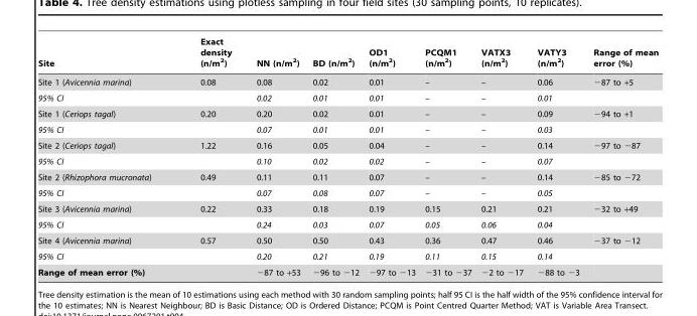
<table><thead><tr><td>Site</td><td>Exact density (n/m<sup>2</sup>)</td><td>NN (n/m<sup>2</sup>)</td><td>BD (n/m<sup>2</sup>)</td><td>OD1 (n/m<sup>2</sup>)</td><td>PCQM1 (n/m<sup>2</sup>)</td><td>VATX3 (n/m<sup>2</sup>)</td><td>VATY3 (n/m<sup>2</sup>)</td><td>Range of mean error (%)</td></tr></thead><tbody><tr><td>Site 1 (Avicennia marina)</td><td>0.08</td><td>0.08</td><td>0.02</td><td>0.01</td><td>–</td><td>–</td><td>0.06</td><td>−87 to +5</td></tr><tr><td>95% CI</td><td></td><td>0.02</td><td>0.01</td><td>0.01</td><td>–</td><td>–</td><td>0.01</td><td></td></tr><tr><td>Site 1 (Ceriops tagal)</td><td>0.20</td><td>0.20</td><td>0.02</td><td>0.01</td><td>–</td><td>–</td><td>0.09</td><td>−94 to +1</td></tr><tr><td>95% CI</td><td></td><td>0.07</td><td>0.01</td><td>0.01</td><td>–</td><td>–</td><td>0.03</td><td></td></tr><tr><td>Site 2 (Ceriops tagal)</td><td>1.22</td><td>0.16</td><td>0.05</td><td>0.04</td><td>–</td><td>–</td><td>0.14</td><td>−97 to −87</td></tr><tr><td>95% CI</td><td></td><td>0.10</td><td>0.02</td><td>0.02</td><td>–</td><td>–</td><td>0.07</td><td></td></tr><tr><td>Site 2 (Rhizophora mucronata)</td><td>0.49</td><td>0.11</td><td>0.11</td><td>0.07</td><td>–</td><td>–</td><td>0.14</td><td>−85 to −72</td></tr><tr><td>95% CI</td><td></td><td>0.07</td><td>0.08</td><td>0.07</td><td>–</td><td>–</td><td>0.05</td><td></td></tr><tr><td>Site 3 (Avicennia marina)</td><td>0.22</td><td>0.33</td><td>0.18</td><td>0.19</td><td>0.15</td><td>0.21</td><td>0.21</td><td>−32 to +49</td></tr><tr><td>95% CI</td><td></td><td>0.24</td><td>0.03</td><td>0.07</td><td>0.05</td><td>0.06</td><td>0.04</td><td></td></tr><tr><td>Site 4 (Avicennia marina)</td><td>0.57</td><td>0.50</td><td>0.50</td><td>0.43</td><td>0.36</td><td>0.47</td><td>0.46</td><td>−37 to −12</td></tr><tr><td>95% CI</td><td></td><td>0.20</td><td>0.21</td><td>0.19</td><td>0.11</td><td>0.15</td><td>0.14</td><td></td></tr><tr><td>Range of mean error (%)</td><td></td><td>−87 to +53</td><td>−96 to −12</td><td>−97 to −13</td><td>−31 to −37</td><td>−2 to −17</td><td>−88 to −3</td><td></td></tr></tbody></table>